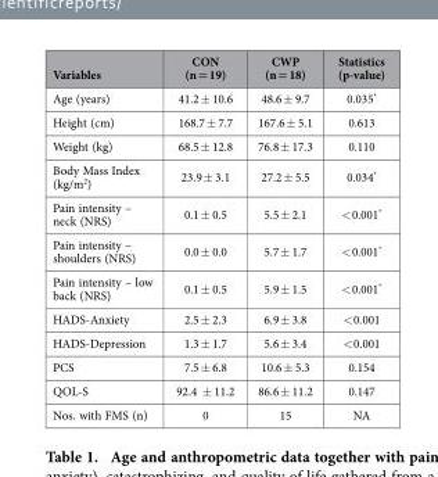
<table><thead><tr><td>Variables</td><td>CON (n = 19)</td><td>CWP (n = 18)</td><td>Statistics (p-value)</td></tr></thead><tbody><tr><td>Age (years)</td><td>41.2 ± 10.6</td><td>48.6 ± 9.7</td><td>0.035*</td></tr><tr><td>Height (cm)</td><td>168.7 ± 7.7</td><td>167.6 ± 5.1</td><td>0.613</td></tr><tr><td>Weight (kg)</td><td>68.5 ± 12.8</td><td>76.8 ± 17.3</td><td>0.110</td></tr><tr><td>Body Mass Index (kg/m<sup>2</sup>)</td><td>23.9 ± 3.1</td><td>27.2 ± 5.5</td><td>0.034*</td></tr><tr><td>Pain intensity – neck (NRS)</td><td>0.1 ± 0.5</td><td>5.5 ± 2.1</td><td>&lt; 0.001*</td></tr><tr><td>Pain intensity – shoulders (NRS)</td><td>0.0 ± 0.0</td><td>5.7 ± 1.7</td><td>&lt; 0.001*</td></tr><tr><td>Pain intensity – low back (NRS)</td><td>0.1 ± 0.5</td><td>5.9 ± 1.5</td><td>&lt; 0.001*</td></tr><tr><td>HADS-Anxiety</td><td>2.5 ± 2.3</td><td>6.9 ± 3.8</td><td>&lt; 0.001</td></tr><tr><td>HADS-Depression</td><td>1.3 ± 1.7</td><td>5.6 ± 3.4</td><td>&lt; 0.001</td></tr><tr><td>PCS</td><td>7.5 ± 6.8</td><td>10.6 ± 5.3</td><td>0.154</td></tr><tr><td>QOL-S</td><td>92.4 ± 11.2</td><td>86.6 ± 11.2</td><td>0.147</td></tr><tr><td>Nos. with FMS (n)</td><td>0</td><td>15</td><td>NA</td></tr></tbody></table>